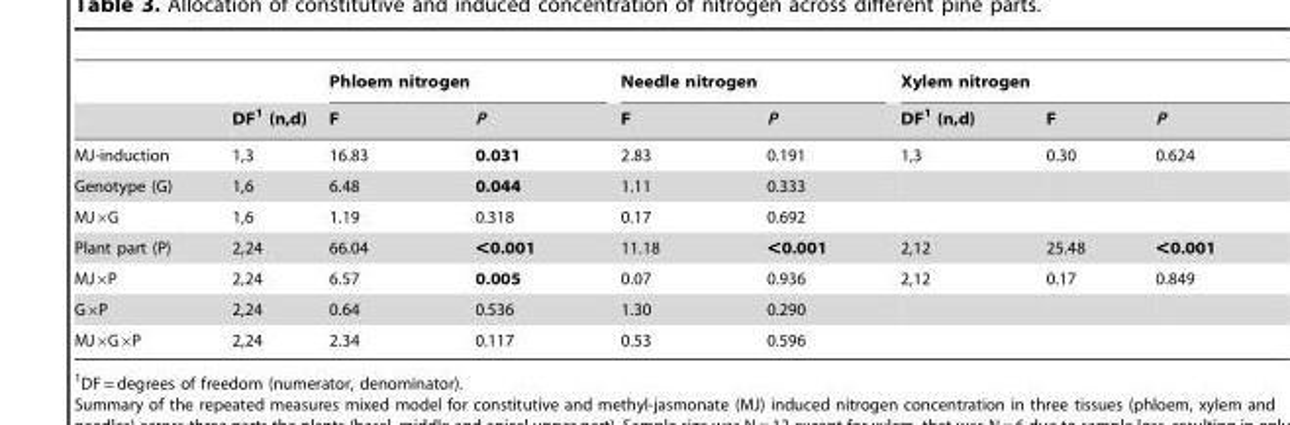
<table><thead><tr><td rowspan="2"></td><td rowspan="2">DF<sup>1</sup> (n,d)</td><td colspan="2">Phloem nitrogen</td><td colspan="2">Needle nitrogen</td><td colspan="3">Xylem nitrogen</td></tr><tr><td>F</td><td>P</td><td>F</td><td>P</td><td>DF<sup>1</sup> (n,d)</td><td>F</td><td>P</td></tr></thead><tbody><tr><td>MJ-induction</td><td>1,3</td><td>16.83</td><td>0.031</td><td>2.83</td><td>0.191</td><td>1,3</td><td>0.30</td><td>0.624</td></tr><tr><td>Genotype (G)</td><td>1,6</td><td>6.48</td><td>0.044</td><td>1.11</td><td>0.333</td><td></td><td></td><td></td></tr><tr><td>MJ×G</td><td>1,6</td><td>1.19</td><td>0.318</td><td>0.17</td><td>0.692</td><td></td><td></td><td></td></tr><tr><td>Plant part (P)</td><td>2,24</td><td>66.04</td><td>&lt;0.001</td><td>11.18</td><td>&lt;0.001</td><td>2,12</td><td>25.48</td><td>&lt;0.001</td></tr><tr><td>MJ×P</td><td>2,24</td><td>6.57</td><td>0.005</td><td>0.07</td><td>0.936</td><td>2,12</td><td>0.17</td><td>0.849</td></tr><tr><td>G×P</td><td>2,24</td><td>0.64</td><td>0.536</td><td>1.30</td><td>0.290</td><td></td><td></td><td></td></tr><tr><td>MJ×G×P</td><td>2,24</td><td>2.34</td><td>0.117</td><td>0.53</td><td>0.596</td><td></td><td></td><td></td></tr></tbody></table>